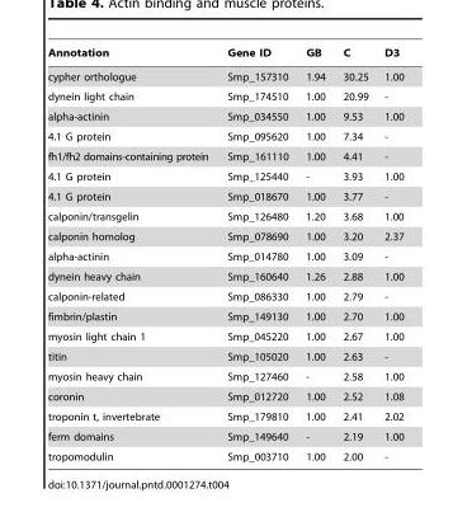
<table><thead><tr><td>Annotation</td><td>Gene ID</td><td>GB</td><td>C</td><td>D3</td></tr></thead><tbody><tr><td>cypher orthologue</td><td>Smp_157310</td><td>1.94</td><td>30.25</td><td>1.00</td></tr><tr><td>dynein light chain</td><td>Smp_174510</td><td>1.00</td><td>20.99</td><td>-</td></tr><tr><td>alpha-actinin</td><td>Smp_034550</td><td>1.00</td><td>9.53</td><td>1.00</td></tr><tr><td>4.1 G protein</td><td>Smp_095620</td><td>1.00</td><td>7.34</td><td>-</td></tr><tr><td>fh1/fh2 domains-containing protein</td><td>Smp_161110</td><td>1.00</td><td>4.41</td><td>-</td></tr><tr><td>4.1 G protein</td><td>Smp_125440</td><td>-</td><td>3.93</td><td>1.00</td></tr><tr><td>4.1 G protein</td><td>Smp_018670</td><td>1.00</td><td>3.77</td><td>-</td></tr><tr><td>calponin/transgelin</td><td>Smp_126480</td><td>1.20</td><td>3.68</td><td>1.00</td></tr><tr><td>calponin homolog</td><td>Smp_078690</td><td>1.00</td><td>3.20</td><td>2.37</td></tr><tr><td>alpha-actinin</td><td>Smp_014780</td><td>1.00</td><td>3.09</td><td>-</td></tr><tr><td>dynein heavy chain</td><td>Smp_160640</td><td>1.26</td><td>2.88</td><td>1.00</td></tr><tr><td>calponin-related</td><td>Smp_086330</td><td>1.00</td><td>2.79</td><td>-</td></tr><tr><td>fimbrin/plastin</td><td>Smp_149130</td><td>1.00</td><td>2.70</td><td>1.00</td></tr><tr><td>myosin light chain 1</td><td>Smp_045220</td><td>1.00</td><td>2.67</td><td>1.00</td></tr><tr><td>titin</td><td>Smp_105020</td><td>1.00</td><td>2.63</td><td>-</td></tr><tr><td>myosin heavy chain</td><td>Smp_127460</td><td>-</td><td>2.58</td><td>1.00</td></tr><tr><td>coronin</td><td>Smp_012720</td><td>1.00</td><td>2.52</td><td>1.08</td></tr><tr><td>troponin t, invertebrate</td><td>Smp_179810</td><td>1.00</td><td>2.41</td><td>2.02</td></tr><tr><td>ferm domains</td><td>Smp_149640</td><td>-</td><td>2.19</td><td>1.00</td></tr><tr><td>tropomodulin</td><td>Smp_003710</td><td>1.00</td><td>2.00</td><td>-</td></tr></tbody></table>